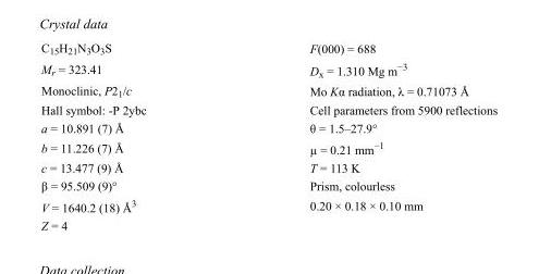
<table><tbody><tr><td>C<sub>15</sub>H<sub>21</sub>N<sub>3</sub>O<sub>3</sub>S</td><td>F(000) = 688</td></tr><tr><td>M<sub>r</sub> = 323.41</td><td>D<sub>x</sub> = 1.310 Mg m<sup>−3</sup></td></tr><tr><td>Monoclinic, P2<sub>1</sub>/c</td><td>Mo Kα radiation, λ = 0.71073 Å</td></tr><tr><td>Hall symbol: -P 2ybc</td><td>Cell parameters from 5900 reflections</td></tr><tr><td>a = 10.891 (7) Å</td><td>θ = 1.5–27.9°</td></tr><tr><td>b = 11.226 (7) Å</td><td>µ = 0.21 mm<sup>−1</sup></td></tr><tr><td>c = 13.477 (9) Å</td><td>T = 113 K</td></tr><tr><td>β = 95.509 (9)°</td><td>Prism, colourless</td></tr><tr><td>V = 1640.2 (18) Å<sup>3</sup></td><td>0.20 × 0.18 × 0.10 mm</td></tr><tr><td>Z = 4</td><td></td></tr></tbody></table>